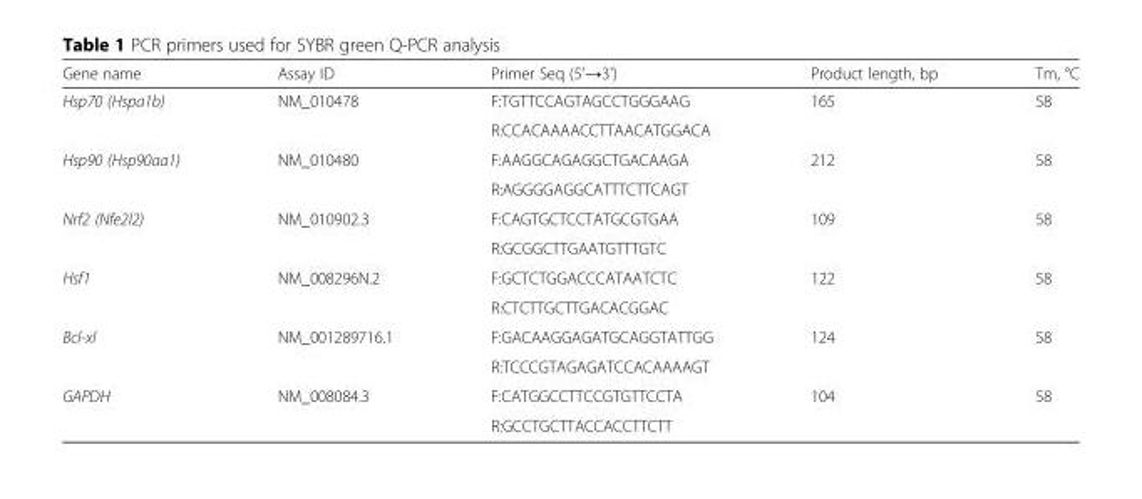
<table><thead><tr><td>Gene name</td><td>Assay ID</td><td>Primer Seq (5&#x27;→3&#x27;)</td><td>Product length, bp</td><td>Tm, °C</td></tr></thead><tbody><tr><td rowspan="2">Hsp70 (Hspa1b)</td><td>NM_010478</td><td>F:TGTTCCAGTAGCCTGGGAAG</td><td rowspan="2">165</td><td rowspan="2">58</td></tr><tr><td></td><td>R:CCACAAAACCTTAACATGGACA</td></tr><tr><td rowspan="2">Hsp90 (Hsp90aa1)</td><td>NM_010480</td><td>F:AAGGCAGAGGCTGACAAGA</td><td rowspan="2">212</td><td rowspan="2">58</td></tr><tr><td></td><td>R:AGGGGAGGCATTTCTTCAGT</td></tr><tr><td rowspan="2">Nrf2 (Nfe2l2)</td><td>NM_010902.3</td><td>F:CAGTGCTCCTATGCGTGAA</td><td rowspan="2">109</td><td rowspan="2">58</td></tr><tr><td></td><td>R:GCGGCTTGAATGTTTGTC</td></tr><tr><td rowspan="2">Hsf1</td><td>NM_008296N.2</td><td>F:GCTCTGGACCCATAATCTC</td><td rowspan="2">122</td><td rowspan="2">58</td></tr><tr><td></td><td>R:CTCTTGCTTGACACGGAC</td></tr><tr><td rowspan="2">Bcl-xl</td><td>NM_001289716.1</td><td>F:GACAAGGAGATGCAGGTATTGG</td><td>124</td><td>58</td></tr><tr><td></td><td>R:TCCCGTAGAGATCCACAAAAGT</td><td></td><td></td></tr><tr><td rowspan="2">GAPDH</td><td>NM_008084.3</td><td>F:CATGGCCTTCCGTGTTCCTA</td><td rowspan="2">104</td><td rowspan="2">58</td></tr><tr><td></td><td>R:GCCTGCTTACCACCTTCTT</td></tr></tbody></table>